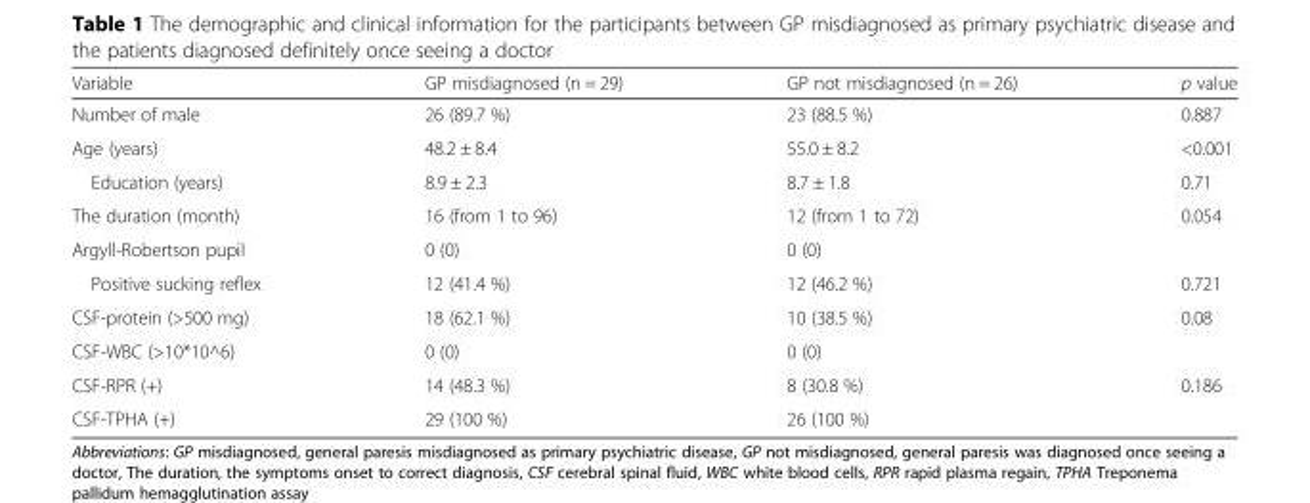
<table><thead><tr><td>Variable</td><td>GP misdiagnosed (n = 29)</td><td>GP not misdiagnosed (n = 26)</td><td>p value</td></tr></thead><tbody><tr><td>Number of male</td><td>26 (89.7 %)</td><td>23 (88.5 %)</td><td>0.887</td></tr><tr><td>Age (years)</td><td>48.2 ± 8.4</td><td>55.0 ± 8.2</td><td>&lt;0.001</td></tr><tr><td>Education (years)</td><td>8.9 ± 2.3</td><td>8.7 ± 1.8</td><td>0.71</td></tr><tr><td>The duration (month)</td><td>16 (from 1 to 96)</td><td>12 (from 1 to 72)</td><td>0.054</td></tr><tr><td>Argyll-Robertson pupil</td><td>0 (0)</td><td>0 (0)</td><td></td></tr><tr><td>Positive sucking reflex</td><td>12 (41.4 %)</td><td>12 (46.2 %)</td><td>0.721</td></tr><tr><td>CSF-protein (&gt;500 mg)</td><td>18 (62.1 %)</td><td>10 (38.5 %)</td><td>0.08</td></tr><tr><td>CSF-WBC (&gt;10*10^6)</td><td>0 (0)</td><td>0 (0)</td><td></td></tr><tr><td>CSF-RPR (+)</td><td>14 (48.3 %)</td><td>8 (30.8 %)</td><td>0.186</td></tr><tr><td>CSF-TPHA (+)</td><td>29 (100 %)</td><td>26 (100 %)</td><td></td></tr></tbody></table>